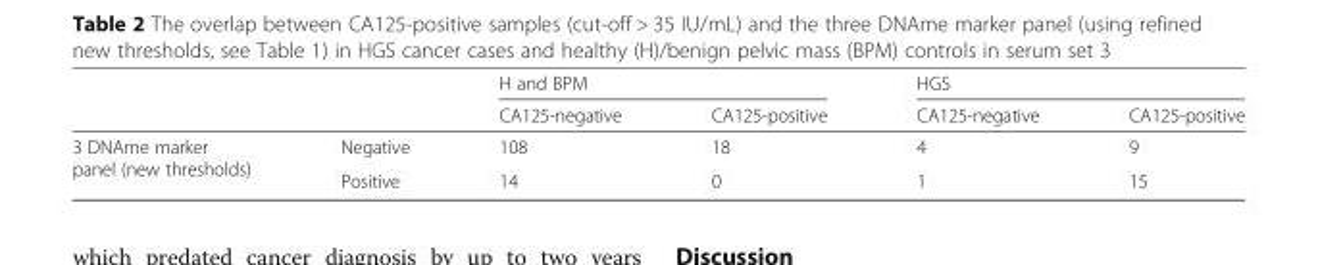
<table><thead><tr><td rowspan="2"></td><td rowspan="2"></td><td colspan="2">H and BPM</td><td colspan="2">HGS</td></tr><tr><td>CA125-negative</td><td>CA125-positive</td><td>CA125-negative</td><td>CA125-positive</td></tr></thead><tbody><tr><td rowspan="2">3 DNAme marker panel (new thresholds)</td><td>Negative</td><td>108</td><td>18</td><td>4</td><td>9</td></tr><tr><td>Positive</td><td>14</td><td>0</td><td>1</td><td>15</td></tr></tbody></table>